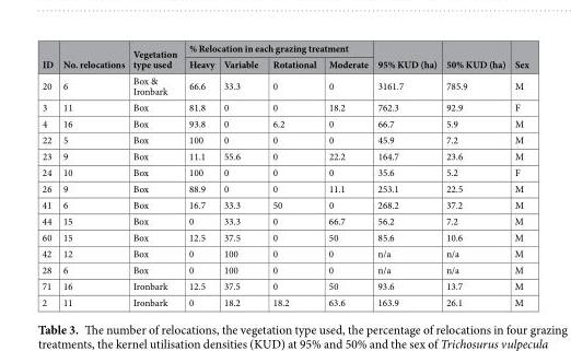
<table><thead><tr><td rowspan="2">ID</td><td rowspan="2">No. relocations</td><td rowspan="2">Vegetation type used</td><td colspan="4">% Relocation in each grazing treatment</td><td rowspan="2">95% KUD (ha)</td><td rowspan="2">50% KUD (ha)</td><td rowspan="2">Sex</td></tr><tr><td>Heavy</td><td>Variable</td><td>Rotational</td><td>Moderate</td></tr></thead><tbody><tr><td>20</td><td>6</td><td>Box &amp; Ironbark</td><td>66.6</td><td>33.3</td><td>0</td><td>0</td><td>3161.7</td><td>785.9</td><td>M</td></tr><tr><td>3</td><td>11</td><td>Box</td><td>81.8</td><td>0</td><td>0</td><td>18.2</td><td>762.3</td><td>92.9</td><td>F</td></tr><tr><td>4</td><td>16</td><td>Box</td><td>93.8</td><td>0</td><td>6.2</td><td>0</td><td>66.7</td><td>5.9</td><td>M</td></tr><tr><td>22</td><td>5</td><td>Box</td><td>100</td><td>0</td><td>0</td><td>0</td><td>45.9</td><td>7.2</td><td>M</td></tr><tr><td>23</td><td>9</td><td>Box</td><td>11.1</td><td>55.6</td><td>0</td><td>22.2</td><td>164.7</td><td>23.6</td><td>M</td></tr><tr><td>24</td><td>10</td><td>Box</td><td>100</td><td>0</td><td>0</td><td>0</td><td>35.6</td><td>5.2</td><td>F</td></tr><tr><td>26</td><td>9</td><td>Box</td><td>88.9</td><td>0</td><td>0</td><td>11.1</td><td>253.1</td><td>22.5</td><td>M</td></tr><tr><td>41</td><td>6</td><td>Box</td><td>16.7</td><td>33.3</td><td>50</td><td>0</td><td>268.2</td><td>37.2</td><td>M</td></tr><tr><td>44</td><td>15</td><td>Box</td><td>0</td><td>33.3</td><td>0</td><td>66.7</td><td>56.2</td><td>7.2</td><td>M</td></tr><tr><td>60</td><td>15</td><td>Box</td><td>12.5</td><td>37.5</td><td>0</td><td>50</td><td>85.6</td><td>10.6</td><td>M</td></tr><tr><td>42</td><td>12</td><td>Box</td><td>0</td><td>100</td><td>0</td><td>0</td><td>n/a</td><td>n/a</td><td>M</td></tr><tr><td>28</td><td>6</td><td>Box</td><td>0</td><td>100</td><td>0</td><td>0</td><td>n/a</td><td>n/a</td><td>M</td></tr><tr><td>71</td><td>16</td><td>Ironbark</td><td>12.5</td><td>37.5</td><td>0</td><td>50</td><td>93.6</td><td>13.7</td><td>M</td></tr><tr><td>2</td><td>11</td><td>Ironbark</td><td>0</td><td>18.2</td><td>18.2</td><td>63.6</td><td>163.9</td><td>26.1</td><td>M</td></tr></tbody></table>